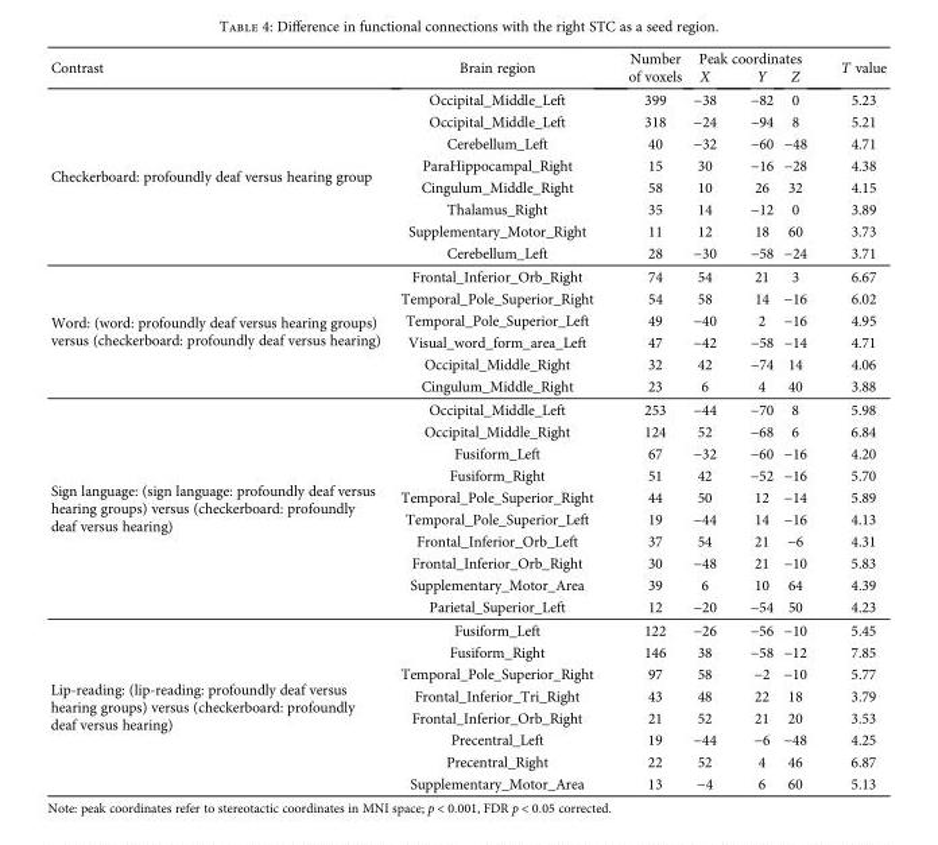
<table><thead><tr><td rowspan="2">Contrast</td><td rowspan="2">Brain region</td><td rowspan="2">Number of voxels</td><td colspan="3">Peak coordinates</td><td rowspan="2">T value</td></tr><tr><td>X</td><td>Y</td><td>Z</td></tr></thead><tbody><tr><td rowspan="8">Checkerboard: profoundly deaf versus hearing group</td><td>Occipital_Middle_Left</td><td>399</td><td>−38</td><td>−82</td><td>0</td><td>5.23</td></tr><tr><td>Occipital_Middle_Left</td><td>318</td><td>−24</td><td>−94</td><td>8</td><td>5.21</td></tr><tr><td>Cerebellum_Left</td><td>40</td><td>−32</td><td>−60</td><td>−48</td><td>4.71</td></tr><tr><td>ParaHippocampal_Right</td><td>15</td><td>30</td><td>−16</td><td>−28</td><td>4.38</td></tr><tr><td>Cingulum_Middle_Right</td><td>58</td><td>10</td><td>26</td><td>32</td><td>4.15</td></tr><tr><td>Thalamus_Right</td><td>35</td><td>14</td><td>−12</td><td>0</td><td>3.89</td></tr><tr><td>Supplementary_Motor_Right</td><td>11</td><td>12</td><td>18</td><td>60</td><td>3.73</td></tr><tr><td>Cerebellum_Left</td><td>28</td><td>−30</td><td>−58</td><td>−24</td><td>3.71</td></tr><tr><td rowspan="6">Word: (word: profoundly deaf versus hearing groups) versus (checkerboard: profoundly deaf versus hearing)</td><td>Frontal_Inferior_Orb_Right</td><td>74</td><td>54</td><td>21</td><td>3</td><td>6.67</td></tr><tr><td>Temporal_Pole_Superior_Right</td><td>54</td><td>58</td><td>14</td><td>−16</td><td>6.02</td></tr><tr><td>Temporal_Pole_Superior_Left</td><td>49</td><td>−40</td><td>2</td><td>−16</td><td>4.95</td></tr><tr><td>Visual_word_form_area_Left</td><td>47</td><td>−42</td><td>−58</td><td>−14</td><td>4.71</td></tr><tr><td>Occipital_Middle_Right</td><td>32</td><td>42</td><td>−74</td><td>14</td><td>4.06</td></tr><tr><td>Cingulum_Middle_Right</td><td>23</td><td>6</td><td>4</td><td>40</td><td>3.88</td></tr><tr><td rowspan="10">Sign language: (sign language: profoundly deaf versus hearing groups) versus (checkerboard: profoundly deaf versus hearing)</td><td>Occipital_Middle_Left</td><td>253</td><td>−44</td><td>−70</td><td>8</td><td>5.98</td></tr><tr><td>Occipital_Middle_Right</td><td>124</td><td>52</td><td>−68</td><td>6</td><td>6.84</td></tr><tr><td>Fusiform_Left</td><td>67</td><td>−32</td><td>−60</td><td>−16</td><td>4.20</td></tr><tr><td>Fusiform_Right</td><td>51</td><td>42</td><td>−52</td><td>−16</td><td>5.70</td></tr><tr><td>Temporal_Pole_Superior_Right</td><td>44</td><td>50</td><td>12</td><td>−14</td><td>5.89</td></tr><tr><td>Temporal_Pole_Superior_Left</td><td>19</td><td>−44</td><td>14</td><td>−16</td><td>4.13</td></tr><tr><td>Frontal_Inferior_Orb_Left</td><td>37</td><td>54</td><td>21</td><td>−6</td><td>4.31</td></tr><tr><td>Frontal_Inferior_Orb_Right</td><td>30</td><td>−48</td><td>21</td><td>−10</td><td>5.83</td></tr><tr><td>Supplementary_Motor_Area</td><td>39</td><td>6</td><td>10</td><td>64</td><td>4.39</td></tr><tr><td>Parietal_Superior_Left</td><td>12</td><td>−20</td><td>−54</td><td>50</td><td>4.23</td></tr><tr><td rowspan="8">Lip-reading: (lip-reading: profoundly deaf versus hearing groups) versus (checkerboard: profoundly deaf versus hearing)</td><td>Fusiform_Left</td><td>122</td><td>−26</td><td>−56</td><td>−10</td><td>5.45</td></tr><tr><td>Fusiform_Right</td><td>146</td><td>38</td><td>−58</td><td>−12</td><td>7.85</td></tr><tr><td>Temporal_Pole_Superior_Right</td><td>97</td><td>58</td><td>−2</td><td>−10</td><td>5.77</td></tr><tr><td>Frontal_Inferior_Tri_Right</td><td>43</td><td>48</td><td>22</td><td>18</td><td>3.79</td></tr><tr><td>Frontal_Inferior_Orb_Right</td><td>21</td><td>52</td><td>21</td><td>20</td><td>3.53</td></tr><tr><td>Precentral_Left</td><td>19</td><td>−44</td><td>−6</td><td>−48</td><td>4.25</td></tr><tr><td>Precentral_Right</td><td>22</td><td>52</td><td>4</td><td>46</td><td>6.87</td></tr><tr><td>Supplementary_Motor_Area</td><td>13</td><td>−4</td><td>6</td><td>60</td><td>5.13</td></tr></tbody></table>